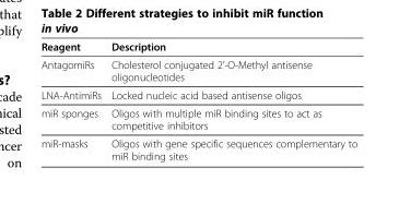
<table><thead><tr><td>Reagent</td><td>Description</td></tr></thead><tbody><tr><td>AntagomiRs</td><td>Cholesterol conjugated 2’-O-Methyl antisense oligonucleotides</td></tr><tr><td>LNA-AntimiRs</td><td>Locked nucleic acid based antisense oligos</td></tr><tr><td>miR sponges</td><td>Oligos with multiple miR binding sites to act as competitive inhibitors</td></tr><tr><td>miR-masks</td><td>Oligos with gene specific sequences complementary to miR binding sites</td></tr></tbody></table>